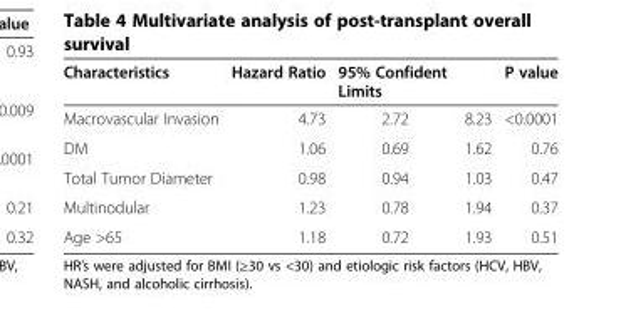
<table><thead><tr><td rowspan="2">Characteristics Macrovascular Invasion</td><td rowspan="2">Hazard Ratio 4.73</td><td colspan="2">95% Confident Limits</td><td rowspan="2">P value &lt;0.0001</td></tr><tr><td>2.72</td><td>8.23</td></tr></thead><tbody><tr><td>DM</td><td>1.06</td><td>0.69</td><td>1.62</td><td>0.76</td></tr><tr><td>Total Tumor Diameter</td><td>0.98</td><td>0.94</td><td>1.03</td><td>0.47</td></tr><tr><td>Multinodular</td><td>1.23</td><td>0.78</td><td>1.94</td><td>0.37</td></tr><tr><td>Age &gt;65</td><td>1.18</td><td>0.72</td><td>1.93</td><td>0.51</td></tr></tbody></table>